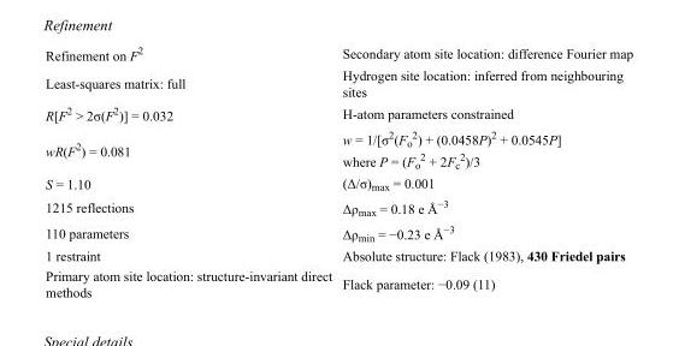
<table><tbody><tr><td>Refinement on F<sup>2</sup></td><td>Secondary atom site location: difference Fourier map</td></tr><tr><td>Least-squares matrix: full</td><td>Hydrogen site location: inferred from neighbouring sites</td></tr><tr><td>R[F<sup>2</sup> &gt; 2σ(F<sup>2</sup>)] = 0.032</td><td>H-atom parameters constrained</td></tr><tr><td>wR(F<sup>2</sup>) = 0.081</td><td>w = 1/[σ<sup>2</sup>(F<sub>o</sub> <sup>2</sup>) + (0.0458P)<sup>2</sup> + 0.0545P] where P = (F<sub>o</sub> <sup>2</sup> + 2F<sub>c</sub> <sup>2</sup>)/3</td></tr><tr><td>S = 1.10</td><td>(Δ/σ)<sub>max</sub> = 0.001</td></tr><tr><td>1215 reflections</td><td>Δρ<sub>max</sub> = 0.18 e Å<sup>−3</sup></td></tr><tr><td>110 parameters</td><td>Δρ<sub>min</sub> = −0.23 e Å<sup>−3</sup></td></tr><tr><td>1 restraint</td><td>Absolute structure: Flack (1983), 430 Friedel pairs</td></tr><tr><td>Primary atom site location: structure-invariant direct methods</td><td>Flack parameter: −0.09 (11)</td></tr></tbody></table>